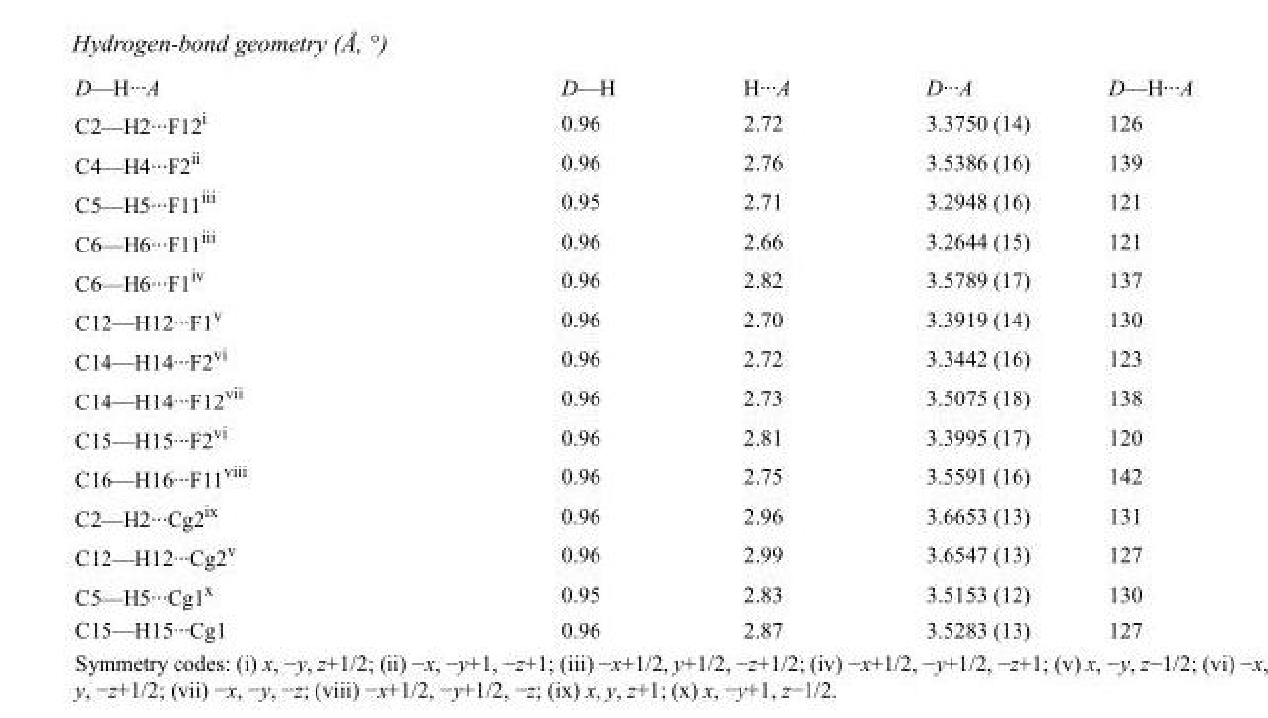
<table><tbody><tr><td>D—H···A</td><td>D—H</td><td>H···A</td><td>D···A</td><td>D—H···A</td></tr><tr><td>C2—H2···F12<sup>i</sup></td><td>0.96</td><td>2.72</td><td>3.3750 (14)</td><td>126</td></tr><tr><td>C4—H4···F2<sup>ii</sup></td><td>0.96</td><td>2.76</td><td>3.5386 (16)</td><td>139</td></tr><tr><td>C5—H5···F11<sup>iii</sup></td><td>0.95</td><td>2.71</td><td>3.2948 (16)</td><td>121</td></tr><tr><td>C6—H6···F11<sup>iii</sup></td><td>0.96</td><td>2.66</td><td>3.2644 (15)</td><td>121</td></tr><tr><td>C6—H6···F1<sup>iv</sup></td><td>0.96</td><td>2.82</td><td>3.5789 (17)</td><td>137</td></tr><tr><td>C12—H12···F1<sup>v</sup></td><td>0.96</td><td>2.70</td><td>3.3919 (14)</td><td>130</td></tr><tr><td>C14—H14···F2<sup>vi</sup></td><td>0.96</td><td>2.72</td><td>3.3442 (16)</td><td>123</td></tr><tr><td>C14—H14···F12<sup>vii</sup></td><td>0.96</td><td>2.73</td><td>3.5075 (18)</td><td>138</td></tr><tr><td>C15—H15···F2<sup>vi</sup></td><td>0.96</td><td>2.81</td><td>3.3995 (17)</td><td>120</td></tr><tr><td>C16—H16···F11<sup>viii</sup></td><td>0.96</td><td>2.75</td><td>3.5591 (16)</td><td>142</td></tr><tr><td>C2—H2···Cg2<sup>ix</sup></td><td>0.96</td><td>2.96</td><td>3.6653 (13)</td><td>131</td></tr><tr><td>C12—H12···Cg2<sup>v</sup></td><td>0.96</td><td>2.99</td><td>3.6547 (13)</td><td>127</td></tr><tr><td>C5—H5···Cg1<sup>x</sup></td><td>0.95</td><td>2.83</td><td>3.5153 (12)</td><td>130</td></tr><tr><td>C15—H15···Cg1</td><td>0.96</td><td>2.87</td><td>3.5283 (13)</td><td>127</td></tr></tbody></table>